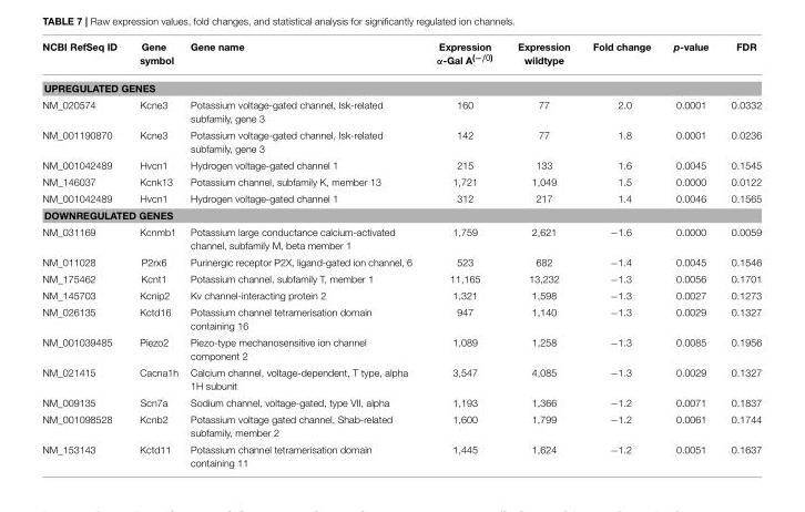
<table><thead><tr><td>NCBI RefSeq ID</td><td>Gene symbol</td><td>Gene name</td><td>Expression α-Gal A<sup>(−/0)</sup></td><td>Expression wildtype</td><td>Fold change</td><td>p-value</td><td>FDR</td></tr></thead><tbody><tr><td colspan="8">UPREGULATED GENES</td></tr><tr><td>NM_020574</td><td>Kcne3</td><td>Potassium voltage-gated channel, Isk-related subfamily, gene 3</td><td>160</td><td>77</td><td>2.0</td><td>0.0001</td><td>0.0332</td></tr><tr><td>NM_001190870</td><td>Kcne3</td><td>Potassium voltage-gated channel, Isk-related subfamily, gene 3</td><td>142</td><td>77</td><td>1.8</td><td>0.0001</td><td>0.0236</td></tr><tr><td>NM_001042489</td><td>Hvcn1</td><td>Hydrogen voltage-gated channel 1</td><td>215</td><td>133</td><td>1.6</td><td>0.0045</td><td>0.1545</td></tr><tr><td>NM_146037</td><td>Kcnk13</td><td>Potassium channel, subfamily K, member 13</td><td>1,721</td><td>1,049</td><td>1.5</td><td>0.0000</td><td>0.0122</td></tr><tr><td>NM_001042489</td><td>Hvcn1</td><td>Hydrogen voltage-gated channel 1</td><td>312</td><td>217</td><td>1.4</td><td>0.0046</td><td>0.1565</td></tr><tr><td colspan="8">DOWNREGULATED GENES</td></tr><tr><td>NM_031169</td><td>Kcnmb1</td><td>Potassium large conductance calcium-activated channel, subfamily M, beta member 1</td><td>1,759</td><td>2,621</td><td>−1.6</td><td>0.0000</td><td>0.0059</td></tr><tr><td>NM_011028</td><td>P2rx6</td><td>Purinergic receptor P2X, ligand-gated ion channel, 6</td><td>523</td><td>682</td><td>−1.4</td><td>0.0045</td><td>0.1546</td></tr><tr><td>NM_175462</td><td>Kcnt1</td><td>Potassium channel, subfamily T, member 1</td><td>11,165</td><td>13,232</td><td>−1.3</td><td>0.0056</td><td>0.1701</td></tr><tr><td>NM_145703</td><td>Kcnip2</td><td>Kv channel-interacting protein 2</td><td>1,321</td><td>1,598</td><td>−1.3</td><td>0.0027</td><td>0.1273</td></tr><tr><td>NM_026135</td><td>Kctd16</td><td>Potassium channel tetramerisation domain containing 16</td><td>947</td><td>1,140</td><td>−1.3</td><td>0.0029</td><td>0.1327</td></tr><tr><td>NM_001039485</td><td>Piezo2</td><td>Piezo-type mechanosensitive ion channel component 2</td><td>1,089</td><td>1,258</td><td>−1.3</td><td>0.0085</td><td>0.1956</td></tr><tr><td>NM_021415</td><td>Cacna1h</td><td>Calcium channel, voltage-dependent, T type, alpha 1H subunit</td><td>3,547</td><td>4,085</td><td>−1.3</td><td>0.0029</td><td>0.1327</td></tr><tr><td>NM_009135</td><td>Scn7a</td><td>Sodium channel, voltage-gated, type VII, alpha</td><td>1,193</td><td>1,366</td><td>−1.2</td><td>0.0071</td><td>0.1837</td></tr><tr><td>NM_001098528</td><td>Kcnb2</td><td>Potassium voltage gated channel, Shab-related subfamily, member 2</td><td>1,600</td><td>1,799</td><td>−1.2</td><td>0.0061</td><td>0.1744</td></tr><tr><td>NM_153143</td><td>Kctd11</td><td>Potassium channel tetramerisation domain containing 11</td><td>1,445</td><td>1,624</td><td>−1.2</td><td>0.0051</td><td>0.1637</td></tr></tbody></table>